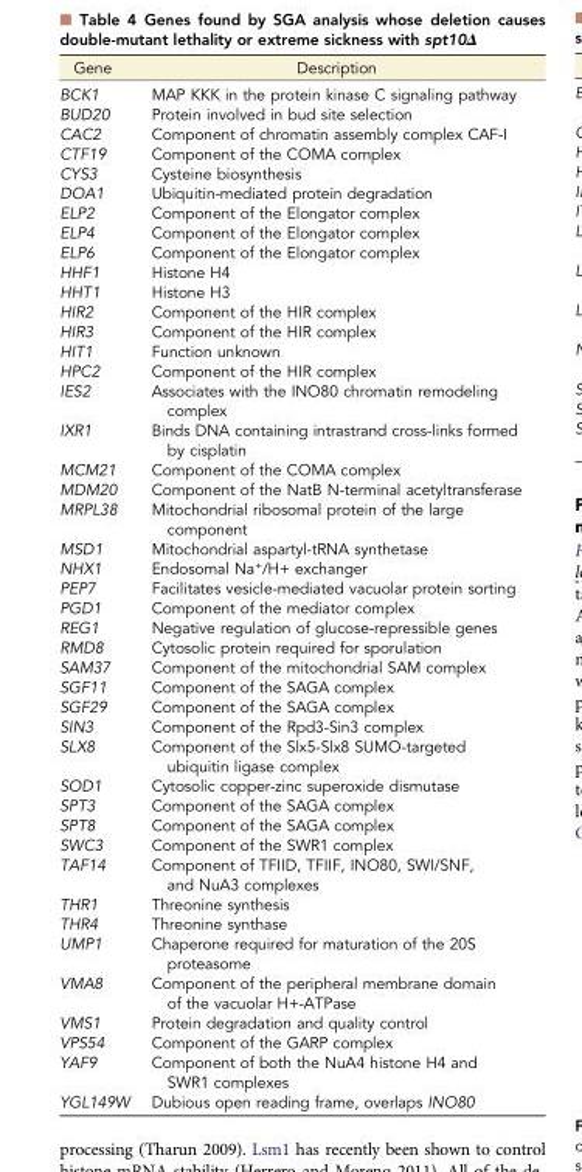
<table><thead><tr><td>Gene</td><td>Description</td></tr></thead><tbody><tr><td>BCK1</td><td>MAP KKK in the protein kinase C signaling pathway</td></tr><tr><td>BUD20</td><td>Protein involved in bud site selection</td></tr><tr><td>CAC2</td><td>Component of chromatin assembly complex CAF-I</td></tr><tr><td>CTF19</td><td>Component of the COMA complex</td></tr><tr><td>CYS3</td><td>Cysteine biosynthesis</td></tr><tr><td>DOA1</td><td>Ubiquitin-mediated protein degradation</td></tr><tr><td>ELP2</td><td>Component of the Elongator complex</td></tr><tr><td>ELP4</td><td>Component of the Elongator complex</td></tr><tr><td>ELP6</td><td>Component of the Elongator complex</td></tr><tr><td>HHF1</td><td>Histone H4</td></tr><tr><td>HHT1</td><td>Histone H3</td></tr><tr><td>HIR2</td><td>Component of the HIR complex</td></tr><tr><td>HIR3</td><td>Component of the HIR complex</td></tr><tr><td>HIT1</td><td>Function unknown</td></tr><tr><td>HPC2</td><td>Component of the HIR complex</td></tr><tr><td>IES2</td><td>Associates with the INO80 chromatin remodeling complex</td></tr><tr><td>IXR1</td><td>Binds DNA containing intrastrand cross-links formed by cisplatin</td></tr><tr><td>MCM21</td><td>Component of the COMA complex</td></tr><tr><td>MDM20</td><td>Component of the NatB N-terminal acetyltransferase</td></tr><tr><td>MRPL38</td><td>Mitochondrial ribosomal protein of the large component</td></tr><tr><td>MSD1</td><td>Mitochondrial aspartyl-tRNA synthetase</td></tr><tr><td>NHX1</td><td>Endosomal Na<sup>+</sup>/H+ exchanger</td></tr><tr><td>PEP7</td><td>Facilitates vesicle-mediated vacuolar protein sorting</td></tr><tr><td>PGD1</td><td>Component of the mediator complex</td></tr><tr><td>REG1</td><td>Negative regulation of glucose-repressible genes</td></tr><tr><td>RMD8</td><td>Cytosolic protein required for sporulation</td></tr><tr><td>SAM37</td><td>Component of the mitochondrial SAM complex</td></tr><tr><td>SGF11</td><td>Component of the SAGA complex</td></tr><tr><td>SGF29</td><td>Component of the SAGA complex</td></tr><tr><td>SIN3</td><td>Component of the Rpd3-Sin3 complex</td></tr><tr><td>SLX8</td><td>Component of the Slx5-Slx8 SUMO-targeted ubiquitin ligase complex</td></tr><tr><td>SOD1</td><td>Cytosolic copper-zinc superoxide dismutase</td></tr><tr><td>SPT3</td><td>Component of the SAGA complex</td></tr><tr><td>SPT8</td><td>Component of the SAGA complex</td></tr><tr><td>SWC3</td><td>Component of the SWR1 complex</td></tr><tr><td>TAF14</td><td>Component of TFIID, TFIIF, INO80, SWI/SNF, and NuA3 complexes</td></tr><tr><td>THR1</td><td>Threonine synthesis</td></tr><tr><td>THR4</td><td>Threonine synthase</td></tr><tr><td>UMP1</td><td>Chaperone required for maturation of the 20S proteasome</td></tr><tr><td>VMA8</td><td>Component of the peripheral membrane domain of the vacuolar H+-ATPase</td></tr><tr><td>VMS1</td><td>Protein degradation and quality control</td></tr><tr><td>VPS54</td><td>Component of the GARP complex</td></tr><tr><td>YAF9</td><td>Component of both the NuA4 histone H4 and SWR1 complexes</td></tr><tr><td>YGL149W</td><td>Dubious open reading frame, overlaps INO80</td></tr></tbody></table>